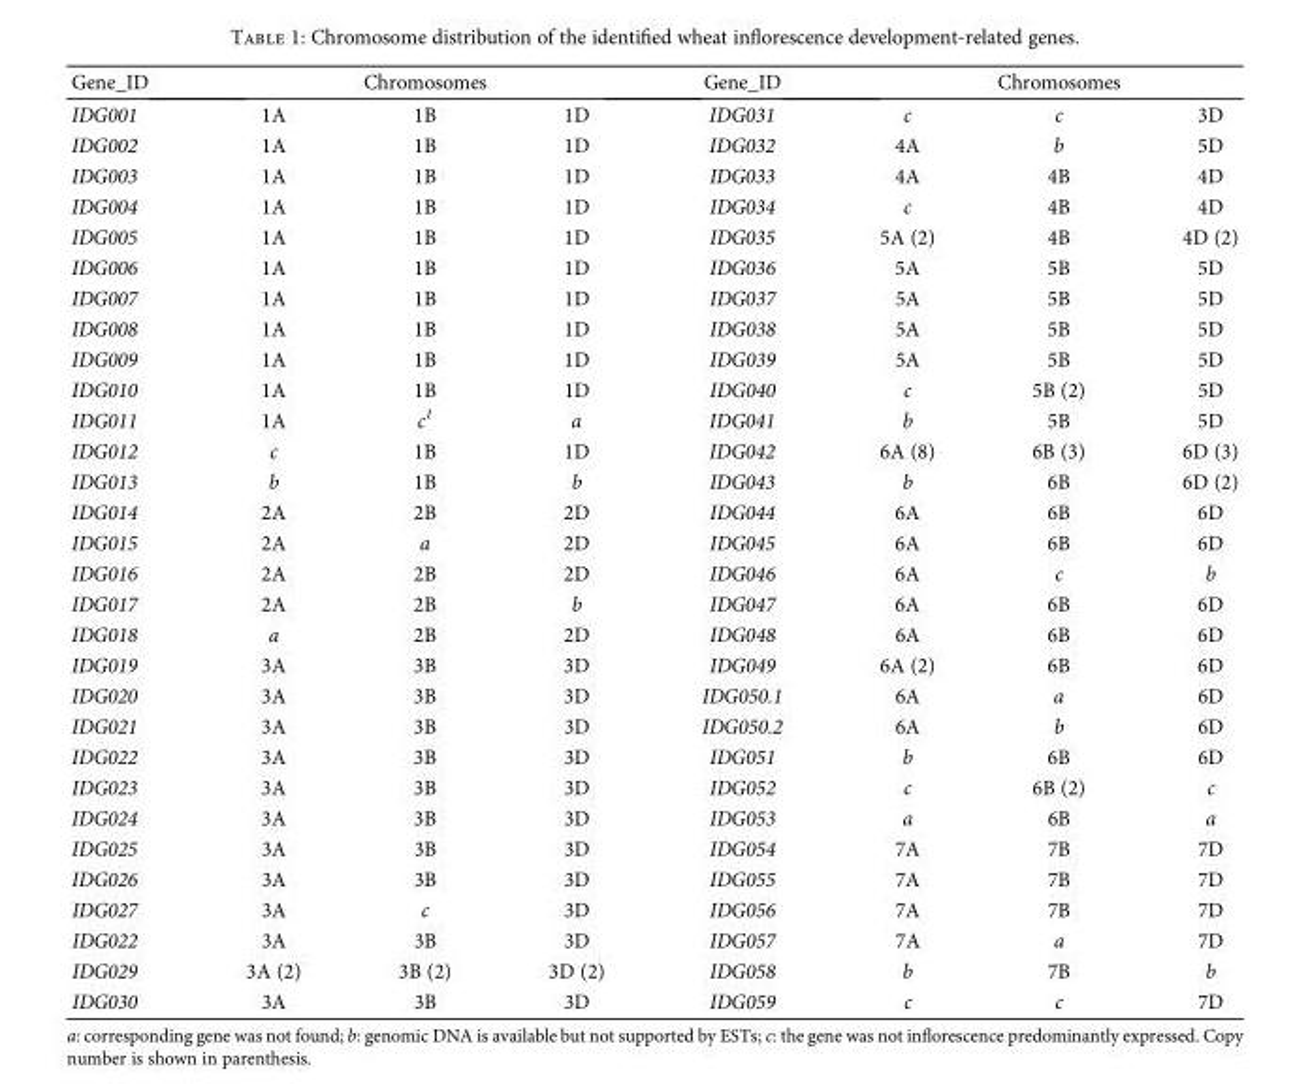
<table><thead><tr><td rowspan="2">Gene_ID IDG001</td><td colspan="3">Chromosomes</td><td rowspan="2">Gene_ID IDG031</td><td colspan="3">Chromosomes</td></tr><tr><td>1A</td><td>1B</td><td>1D</td><td>c</td><td>c</td><td>3D</td></tr></thead><tbody><tr><td>IDG002</td><td>1A</td><td>1B</td><td>1D</td><td>IDG032</td><td>4A</td><td>b</td><td>5D</td></tr><tr><td>IDG003</td><td>1A</td><td>1B</td><td>1D</td><td>IDG033</td><td>4A</td><td>4B</td><td>4D</td></tr><tr><td>IDG004</td><td>1A</td><td>1B</td><td>1D</td><td>IDG034</td><td>c</td><td>4B</td><td>4D</td></tr><tr><td>IDG005</td><td>1A</td><td>1B</td><td>1D</td><td>IDG035</td><td>5A (2)</td><td>4B</td><td>4D (2)</td></tr><tr><td>IDG006</td><td>1A</td><td>1B</td><td>1D</td><td>IDG036</td><td>5A</td><td>5B</td><td>5D</td></tr><tr><td>IDG007</td><td>1A</td><td>1B</td><td>1D</td><td>IDG037</td><td>5A</td><td>5B</td><td>5D</td></tr><tr><td>IDG008</td><td>1A</td><td>1B</td><td>1D</td><td>IDG038</td><td>5A</td><td>5B</td><td>5D</td></tr><tr><td>IDG009</td><td>1A</td><td>1B</td><td>1D</td><td>IDG039</td><td>5A</td><td>5B</td><td>5D</td></tr><tr><td>IDG010</td><td>1A</td><td>1B</td><td>1D</td><td>IDG040</td><td>c</td><td>5B (2)</td><td>5D</td></tr><tr><td>IDG011</td><td>1A</td><td>c<sup>1</sup></td><td>a</td><td>IDG041</td><td>b</td><td>5B</td><td>5D</td></tr><tr><td>IDG012</td><td>c</td><td>1B</td><td>1D</td><td>IDG042</td><td>6A (8)</td><td>6B (3)</td><td>6D (3)</td></tr><tr><td>IDG013</td><td>b</td><td>1B</td><td>b</td><td>IDG043</td><td>b</td><td>6B</td><td>6D (2)</td></tr><tr><td>IDG014</td><td>2A</td><td>2B</td><td>2D</td><td>IDG044</td><td>6A</td><td>6B</td><td>6D</td></tr><tr><td>IDG015</td><td>2A</td><td>a</td><td>2D</td><td>IDG045</td><td>6A</td><td>6B</td><td>6D</td></tr><tr><td>IDG016</td><td>2A</td><td>2B</td><td>2D</td><td>IDG046</td><td>6A</td><td>c</td><td>b</td></tr><tr><td>IDG017</td><td>2A</td><td>2B</td><td>b</td><td>IDG047</td><td>6A</td><td>6B</td><td>6D</td></tr><tr><td>IDG018</td><td>a</td><td>2B</td><td>2D</td><td>IDG048</td><td>6A</td><td>6B</td><td>6D</td></tr><tr><td>IDG019</td><td>3A</td><td>3B</td><td>3D</td><td>IDG049</td><td>6A (2)</td><td>6B</td><td>6D</td></tr><tr><td>IDG020</td><td>3A</td><td>3B</td><td>3D</td><td>IDG050.1</td><td>6A</td><td>a</td><td>6D</td></tr><tr><td>IDG021</td><td>3A</td><td>3B</td><td>3D</td><td>IDG050.2</td><td>6A</td><td>b</td><td>6D</td></tr><tr><td>IDG022</td><td>3A</td><td>3B</td><td>3D</td><td>IDG051</td><td>b</td><td>6B</td><td>6D</td></tr><tr><td>IDG023</td><td>3A</td><td>3B</td><td>3D</td><td>IDG052</td><td>c</td><td>6B (2)</td><td>c</td></tr><tr><td>IDG024</td><td>3A</td><td>3B</td><td>3D</td><td>IDG053</td><td>a</td><td>6B</td><td>a</td></tr><tr><td>IDG025</td><td>3A</td><td>3B</td><td>3D</td><td>IDG054</td><td>7A</td><td>7B</td><td>7D</td></tr><tr><td>IDG026</td><td>3A</td><td>3B</td><td>3D</td><td>IDG055</td><td>7A</td><td>7B</td><td>7D</td></tr><tr><td>IDG027</td><td>3A</td><td>c</td><td>3D</td><td>IDG056</td><td>7A</td><td>7B</td><td>7D</td></tr><tr><td>IDG022</td><td>3A</td><td>3B</td><td>3D</td><td>IDG057</td><td>7A</td><td>a</td><td>7D</td></tr><tr><td>IDG029</td><td>3A (2)</td><td>3B (2)</td><td>3D (2)</td><td>IDG058</td><td>b</td><td>7B</td><td>b</td></tr><tr><td>IDG030</td><td>3A</td><td>3B</td><td>3D</td><td>IDG059</td><td>c</td><td>c</td><td>7D</td></tr></tbody></table>